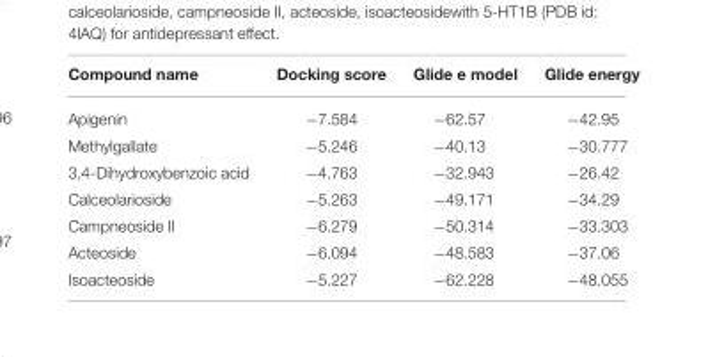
<table><thead><tr><td>Compound name</td><td>Docking score</td><td>Glide e model</td><td>Glide energy</td></tr></thead><tbody><tr><td>Apigenin</td><td>−7.584</td><td>−62.57</td><td>−42.95</td></tr><tr><td>Methylgallate</td><td>−5.246</td><td>−40.13</td><td>−30.777</td></tr><tr><td>3,4-Dihydroxybenzoic acid</td><td>−4.763</td><td>−32.943</td><td>−26.42</td></tr><tr><td>Calceolarioside</td><td>−5.263</td><td>−49.171</td><td>−34.29</td></tr><tr><td>Campneoside II</td><td>−6.279</td><td>−50.314</td><td>−33.303</td></tr><tr><td>Acteoside</td><td>−6.094</td><td>−48.583</td><td>−37.06</td></tr><tr><td>Isoacteoside</td><td>−5.227</td><td>−62.228</td><td>−48.055</td></tr></tbody></table>